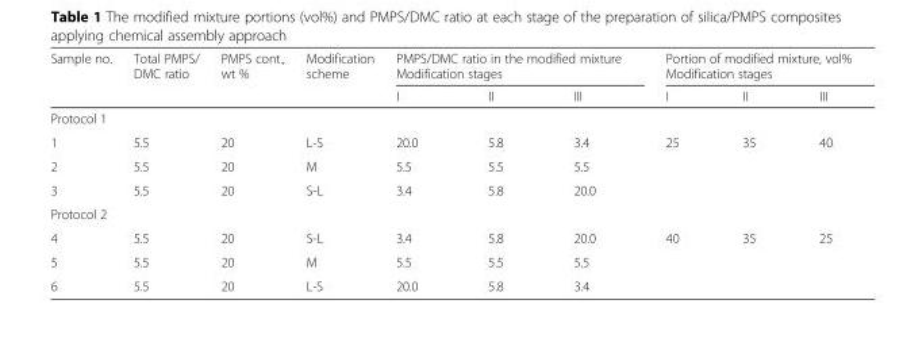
<table><thead><tr><td rowspan="3">Sample no.</td><td rowspan="3">Total PMPS/ DMC ratio</td><td rowspan="3">PMPS cont., wt %</td><td rowspan="3">Modification scheme</td><td rowspan="2" colspan="3">PMPS/DMC ratio in the modified mixture Modification stages</td><td rowspan="2" colspan="3">Portion of modified mixture, vol% Modification stages</td></tr><tr></tr><tr><td>I</td><td>II</td><td>III</td><td>I</td><td>II</td><td>III</td></tr></thead><tbody><tr><td colspan="10">Protocol 1</td></tr><tr><td>1</td><td>5.5</td><td>20</td><td>L-S</td><td>20.0</td><td>5.8</td><td>3.4</td><td rowspan="3">25</td><td rowspan="3">35</td><td rowspan="3">40</td></tr><tr><td>2</td><td>5.5</td><td>20</td><td>M</td><td>5.5</td><td>5.5</td><td>5.5</td></tr><tr><td>3</td><td>5.5</td><td>20</td><td>S-L</td><td>3.4</td><td>5.8</td><td>20.0</td></tr><tr><td colspan="10">Protocol 2</td></tr><tr><td>4</td><td>5.5</td><td>20</td><td>S-L</td><td>3.4</td><td>5.8</td><td>20.0</td><td rowspan="3">40</td><td rowspan="3">35</td><td rowspan="3">25</td></tr><tr><td>5</td><td>5.5</td><td>20</td><td>M</td><td>5.5</td><td>5.5</td><td>5.5</td></tr><tr><td>6</td><td>5.5</td><td>20</td><td>L-S</td><td>20.0</td><td>5.8</td><td>3.4</td></tr></tbody></table>